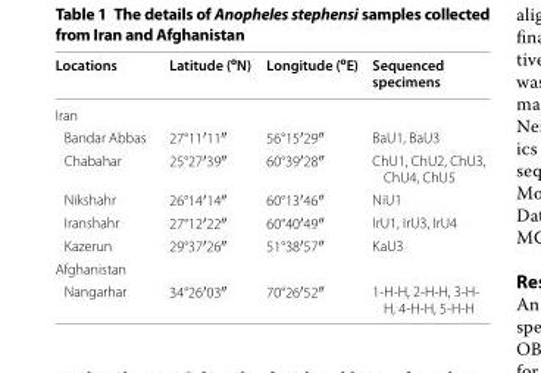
<table><thead><tr><td>Locations</td><td>Latitude (<sup>o</sup>N)</td><td>Longitude (<sup>o</sup>E)</td><td>Sequenced specimens</td></tr></thead><tbody><tr><td colspan="4">Iran</td></tr><tr><td>Bandar Abbas</td><td>27°11′11″</td><td>56°15′29″</td><td>BaU1, BaU3</td></tr><tr><td>Chabahar</td><td>25°27′39″</td><td>60°39′28″</td><td>ChU1, ChU2, ChU3, ChU4, ChU5</td></tr><tr><td>Nikshahr</td><td>26°14′14″</td><td>60°13′46″</td><td>NiU1</td></tr><tr><td>Iranshahr</td><td>27°12′22″</td><td>60°40′49″</td><td>IrU1, IrU3, IrU4</td></tr><tr><td>Kazerun</td><td>29°37′26″</td><td>51°38′57″</td><td>KaU3</td></tr><tr><td colspan="4">Afghanistan</td></tr><tr><td>Nangarhar</td><td>34°26′03″</td><td>70°26′52″</td><td>1-H-H, 2-H-H, 3-H- H, 4-H-H, 5-H-H</td></tr></tbody></table>